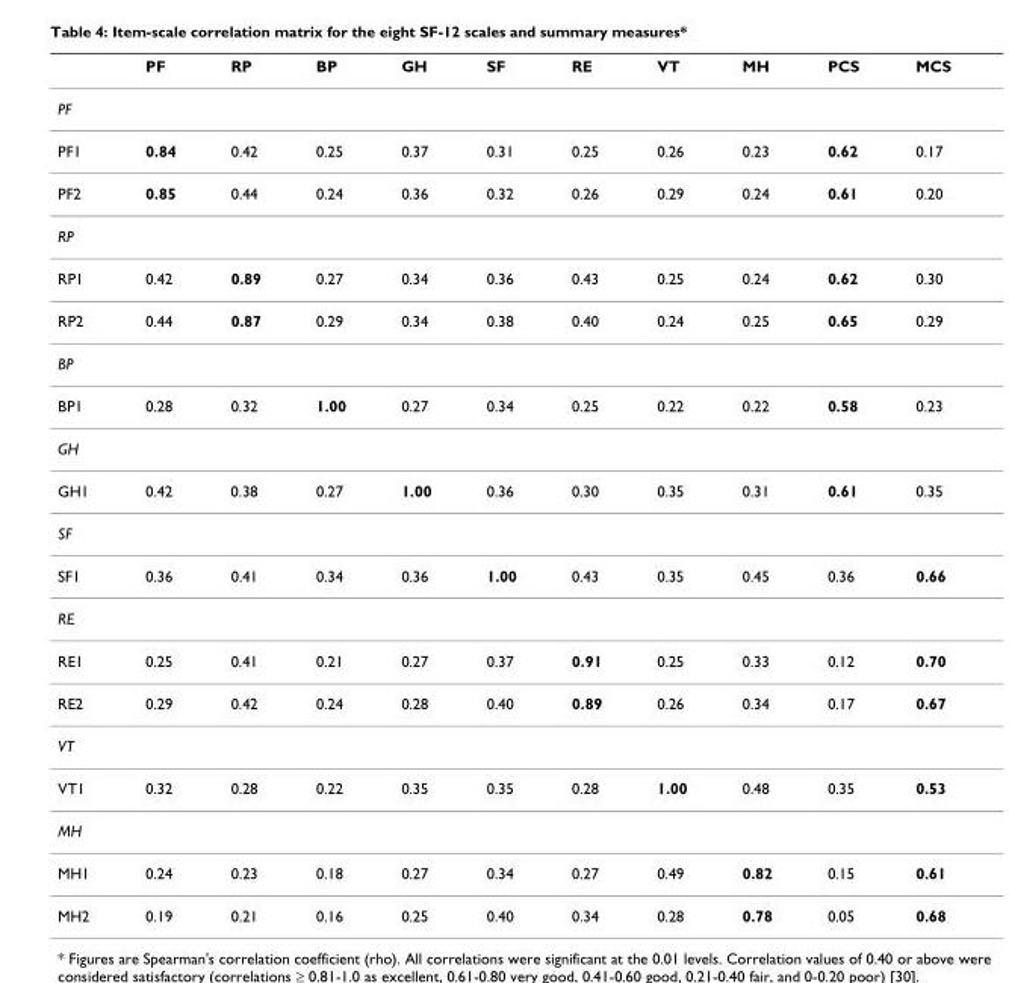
<table><thead><tr><td></td><td>PF</td><td>RP</td><td>BP</td><td>GH</td><td>SF</td><td>RE</td><td>VT</td><td>MH</td><td>PCS</td><td>MCS</td></tr></thead><tbody><tr><td colspan="11">PF</td></tr><tr><td>PF1</td><td>0.84</td><td>0.42</td><td>0.25</td><td>0.37</td><td>0.31</td><td>0.25</td><td>0.26</td><td>0.23</td><td>0.62</td><td>0.17</td></tr><tr><td>PF2</td><td>0.85</td><td>0.44</td><td>0.24</td><td>0.36</td><td>0.32</td><td>0.26</td><td>0.29</td><td>0.24</td><td>0.61</td><td>0.20</td></tr><tr><td colspan="11">RP</td></tr><tr><td>RP1</td><td>0.42</td><td>0.89</td><td>0.27</td><td>0.34</td><td>0.36</td><td>0.43</td><td>0.25</td><td>0.24</td><td>0.62</td><td>0.30</td></tr><tr><td>RP2</td><td>0.44</td><td>0.87</td><td>0.29</td><td>0.34</td><td>0.38</td><td>0.40</td><td>0.24</td><td>0.25</td><td>0.65</td><td>0.29</td></tr><tr><td colspan="11">BP</td></tr><tr><td>BP1</td><td>0.28</td><td>0.32</td><td>1.00</td><td>0.27</td><td>0.34</td><td>0.25</td><td>0.22</td><td>0.22</td><td>0.58</td><td>0.23</td></tr><tr><td colspan="11">GH</td></tr><tr><td>GH1</td><td>0.42</td><td>0.38</td><td>0.27</td><td>1.00</td><td>0.36</td><td>0.30</td><td>0.35</td><td>0.31</td><td>0.61</td><td>0.35</td></tr><tr><td colspan="11">SF</td></tr><tr><td>SF1</td><td>0.36</td><td>0.41</td><td>0.34</td><td>0.36</td><td>1.00</td><td>0.43</td><td>0.35</td><td>0.45</td><td>0.36</td><td>0.66</td></tr><tr><td colspan="11">RE</td></tr><tr><td>RE1</td><td>0.25</td><td>0.41</td><td>0.21</td><td>0.27</td><td>0.37</td><td>0.91</td><td>0.25</td><td>0.33</td><td>0.12</td><td>0.70</td></tr><tr><td>RE2</td><td>0.29</td><td>0.42</td><td>0.24</td><td>0.28</td><td>0.40</td><td>0.89</td><td>0.26</td><td>0.34</td><td>0.17</td><td>0.67</td></tr><tr><td colspan="11">VT</td></tr><tr><td>VT1</td><td>0.32</td><td>0.28</td><td>0.22</td><td>0.35</td><td>0.35</td><td>0.28</td><td>1.00</td><td>0.48</td><td>0.35</td><td>0.53</td></tr><tr><td colspan="11">MH</td></tr><tr><td>MH1</td><td>0.24</td><td>0.23</td><td>0.18</td><td>0.27</td><td>0.34</td><td>0.27</td><td>0.49</td><td>0.82</td><td>0.15</td><td>0.61</td></tr><tr><td>MH2</td><td>0.19</td><td>0.21</td><td>0.16</td><td>0.25</td><td>0.40</td><td>0.34</td><td>0.28</td><td>0.78</td><td>0.05</td><td>0.68</td></tr></tbody></table>